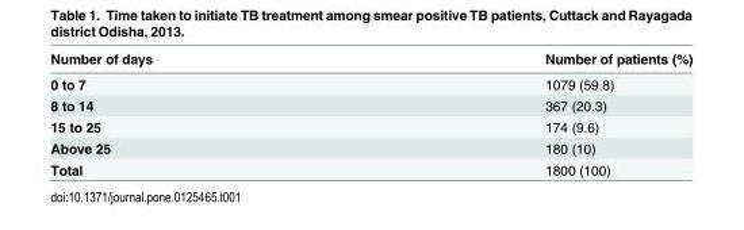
<table><thead><tr><td>Number of days</td><td>Number of patients (%)</td></tr></thead><tbody><tr><td>0 to 7</td><td>1079 (59.8)</td></tr><tr><td>8 to 14</td><td>367 (20.3)</td></tr><tr><td>15 to 25</td><td>174 (9.6)</td></tr><tr><td>Above 25</td><td>180 (10)</td></tr><tr><td>Total</td><td>1800 (100)</td></tr></tbody></table>